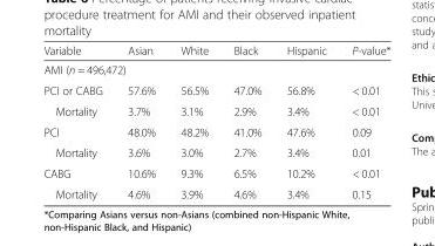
<table><thead><tr><td>Variable</td><td>Asian</td><td>White</td><td>Black</td><td>Hispanic</td><td>P-value*</td></tr></thead><tbody><tr><td colspan="6">AMI (n = 496,472)</td></tr><tr><td>PCI or CABG</td><td>57.6%</td><td>56.5%</td><td>47.0%</td><td>56.8%</td><td>&lt; 0.01</td></tr><tr><td>Mortality</td><td>3.7%</td><td>3.1%</td><td>2.9%</td><td>3.4%</td><td>&lt; 0.01</td></tr><tr><td>PCI</td><td>48.0%</td><td>48.2%</td><td>41.0%</td><td>47.6%</td><td>0.09</td></tr><tr><td>Mortality</td><td>3.6%</td><td>3.0%</td><td>2.7%</td><td>3.4%</td><td>0.01</td></tr><tr><td>CABG</td><td>10.6%</td><td>9.3%</td><td>6.5%</td><td>10.2%</td><td>&lt; 0.01</td></tr><tr><td>Mortality</td><td>4.6%</td><td>3.9%</td><td>4.6%</td><td>3.4%</td><td>0.15</td></tr></tbody></table>